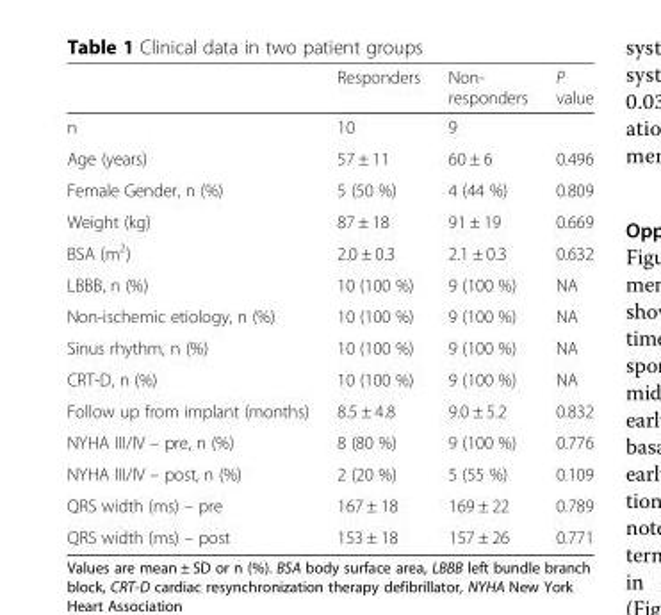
<table><thead><tr><td></td><td>Responders</td><td>Non- responders</td><td>P value</td></tr></thead><tbody><tr><td>n</td><td>10</td><td>9</td><td></td></tr><tr><td>Age (years)</td><td>57 ± 11</td><td>60 ± 6</td><td>0.496</td></tr><tr><td>Female Gender, n (%)</td><td>5 (50 %)</td><td>4 (44 %)</td><td>0.809</td></tr><tr><td>Weight (kg)</td><td>87 ± 18</td><td>91 ± 19</td><td>0.669</td></tr><tr><td>BSA (m<sup>2</sup>)</td><td>2.0 ± 0.3</td><td>2.1 ± 0.3</td><td>0.632</td></tr><tr><td>LBBB, n (%)</td><td>10 (100 %)</td><td>9 (100 %)</td><td>NA</td></tr><tr><td>Non-ischemic etiology, n (%)</td><td>10 (100 %)</td><td>9 (100 %)</td><td>NA</td></tr><tr><td>Sinus rhythm, n (%)</td><td>10 (100 %)</td><td>9 (100 %)</td><td>NA</td></tr><tr><td>CRT-D, n (%)</td><td>10 (100 %)</td><td>9 (100 %)</td><td>NA</td></tr><tr><td>Follow up from implant (months)</td><td>8.5 ± 4.8</td><td>9.0 ± 5.2</td><td>0.832</td></tr><tr><td>NYHA III/IV – pre, n (%)</td><td>8 (80 %)</td><td>9 (100 %)</td><td>0.776</td></tr><tr><td>NYHA III/IV – post, n (%)</td><td>2 (20 %)</td><td>5 (55 %)</td><td>0.109</td></tr><tr><td>QRS width (ms) – pre</td><td>167 ± 18</td><td>169 ± 22</td><td>0.789</td></tr><tr><td>QRS width (ms) – post</td><td>153 ± 18</td><td>157 ± 26</td><td>0.771</td></tr></tbody></table>